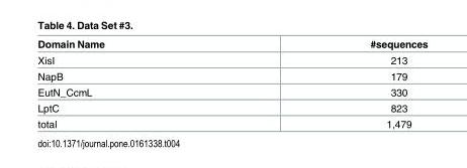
<table><thead><tr><td>Domain Name</td><td>#sequences</td></tr></thead><tbody><tr><td>XisI</td><td>213</td></tr><tr><td>NapB</td><td>179</td></tr><tr><td>EutN_CcmL</td><td>330</td></tr><tr><td>LptC</td><td>823</td></tr><tr><td>total</td><td>1,479</td></tr></tbody></table>